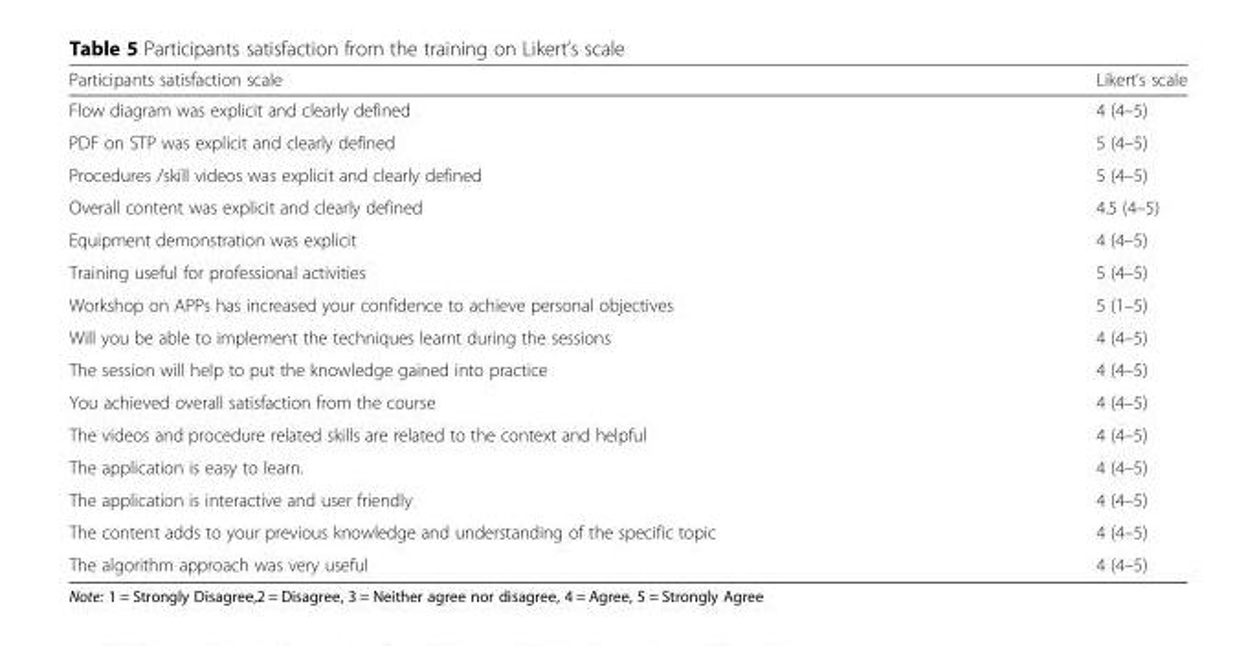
<table><thead><tr><td>Participants satisfaction scale</td><td>Likert’s scale</td></tr></thead><tbody><tr><td>Flow diagram was explicit and clearly defined</td><td>4 (4–5)</td></tr><tr><td>PDF on STP was explicit and clearly defined</td><td>5 (4–5)</td></tr><tr><td>Procedures /skill videos was explicit and clearly defined</td><td>5 (4–5)</td></tr><tr><td>Overall content was explicit and clearly defined</td><td>4.5 (4–5)</td></tr><tr><td>Equipment demonstration was explicit</td><td>4 (4–5)</td></tr><tr><td>Training useful for professional activities</td><td>5 (4–5)</td></tr><tr><td>Workshop on APPs has increased your confidence to achieve personal objectives</td><td>5 (1–5)</td></tr><tr><td>Will you be able to implement the techniques learnt during the sessions</td><td>4 (4–5)</td></tr><tr><td>The session will help to put the knowledge gained into practice</td><td>4 (4–5)</td></tr><tr><td>You achieved overall satisfaction from the course</td><td>4 (4–5)</td></tr><tr><td>The videos and procedure related skills are related to the context and helpful</td><td>4 (4–5)</td></tr><tr><td>The application is easy to learn.</td><td>4 (4–5)</td></tr><tr><td>The application is interactive and user friendly</td><td>4 (4–5)</td></tr><tr><td>The content adds to your previous knowledge and understanding of the specific topic</td><td>4 (4–5)</td></tr><tr><td>The algorithm approach was very useful</td><td>4 (4–5)</td></tr></tbody></table>